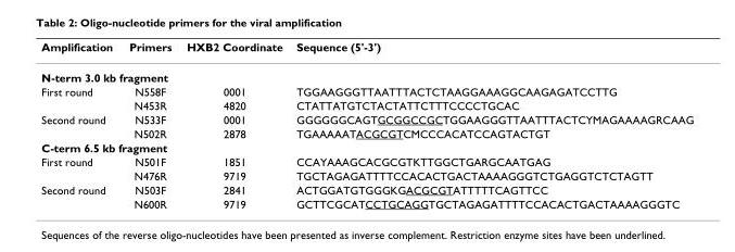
<table><thead><tr><td>Amplification</td><td>Primers</td><td>HXB2 Coordinate</td><td>Sequence (5&#x27;-3&#x27;)</td></tr></thead><tbody><tr><td colspan="4">N-term 3.0 kb fragment</td></tr><tr><td rowspan="2">First round</td><td>N558F</td><td>0001</td><td>TGGAAGGGTTAATTTACTCTAAGGAAAGGCAAGAGATCCTTG</td></tr><tr><td>N453R</td><td>4820</td><td>CTATTATGTCTACTATTCTTTCCCCTGCAC</td></tr><tr><td rowspan="2">Second round</td><td>N533F</td><td>0001</td><td>GGGGGGCAGTGCGGCCGCTGGAAGGGTTAATTTACTCYMAGAAAAGRCAAG</td></tr><tr><td>N502R</td><td>2878</td><td>TGAAAAATACGCGTCMCCCACATCCAGTACTGT</td></tr><tr><td colspan="4">C-term 6.5 kb fragment</td></tr><tr><td rowspan="2">First round</td><td>N501F</td><td>1851</td><td>CCAYAAAGCACGCGTKTTGGCTGARGCAATGAG</td></tr><tr><td>N476R</td><td>9719</td><td>TGCTAGAGATTTTCCACACTGACTAAAAGGGTCTGAGGTCTCTAGTT</td></tr><tr><td rowspan="2">Second round</td><td>N503F</td><td>2841</td><td>ACTGGATGTGGGKGACGCGTATTTTTCAGTTCC</td></tr><tr><td>N600R</td><td>9719</td><td>GCTTCGCATCCTGCAGGTGCTAGAGATTTTCCACACTGACTAAAAGGGTC</td></tr></tbody></table>